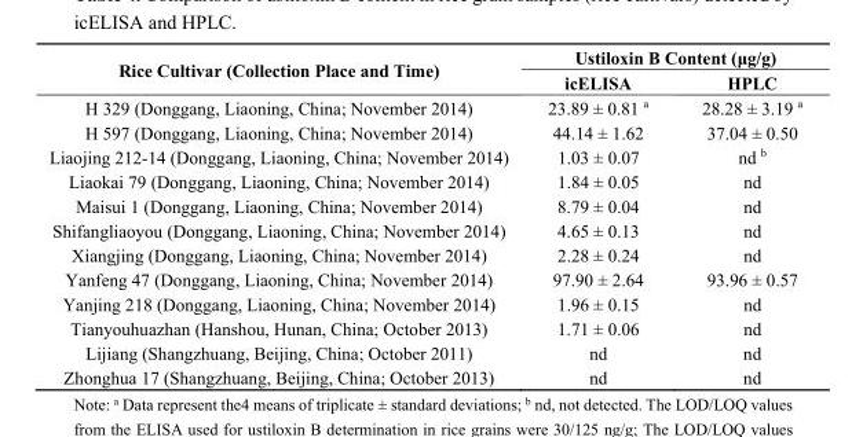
<table><thead><tr><td rowspan="2">Rice Cultivar (Collection Place and Time)</td><td colspan="2">Ustiloxin B Content (μg/g)</td></tr><tr><td>icELISA</td><td>HPLC</td></tr></thead><tbody><tr><td>H 329 (Donggang, Liaoning, China; November 2014)</td><td>23.89 ± 0.81 <sup>a</sup></td><td>28.28 ± 3.19 <sup>a</sup></td></tr><tr><td>H 597 (Donggang, Liaoning, China; November 2014)</td><td>44.14 ± 1.62</td><td>37.04 ± 0.50</td></tr><tr><td>Liaojing 212-14 (Donggang, Liaoning, China; November 2014)</td><td>1.03 ± 0.07</td><td>nd <sup>b</sup></td></tr><tr><td>Liaokai 79 (Donggang, Liaoning, China; November 2014)</td><td>1.84 ± 0.05</td><td>nd</td></tr><tr><td>Maisui 1 (Donggang, Liaoning, China; November 2014)</td><td>8.79 ± 0.04</td><td>nd</td></tr><tr><td>Shifangliaoyou (Donggang, Liaoning, China; November 2014)</td><td>4.65 ± 0.13</td><td>nd</td></tr><tr><td>Xiangjing (Donggang, Liaoning, China; November 2014)</td><td>2.28 ± 0.24</td><td>nd</td></tr><tr><td>Yanfeng 47 (Donggang, Liaoning, China; November 2014)</td><td>97.90 ± 2.64</td><td>93.96 ± 0.57</td></tr><tr><td>Yanjing 218 (Donggang, Liaoning, China; November 2014)</td><td>1.96 ± 0.15</td><td>nd</td></tr><tr><td>Tianyouhuazhan (Hanshou, Hunan, China; October 2013)</td><td>1.71 ± 0.06</td><td>nd</td></tr><tr><td>Lijiang (Shangzhuang, Beijing, China; October 2011)</td><td>nd</td><td>nd</td></tr><tr><td>Zhonghua 17 (Shangzhuang, Beijing, China; October 2013)</td><td>nd</td><td>nd</td></tr></tbody></table>